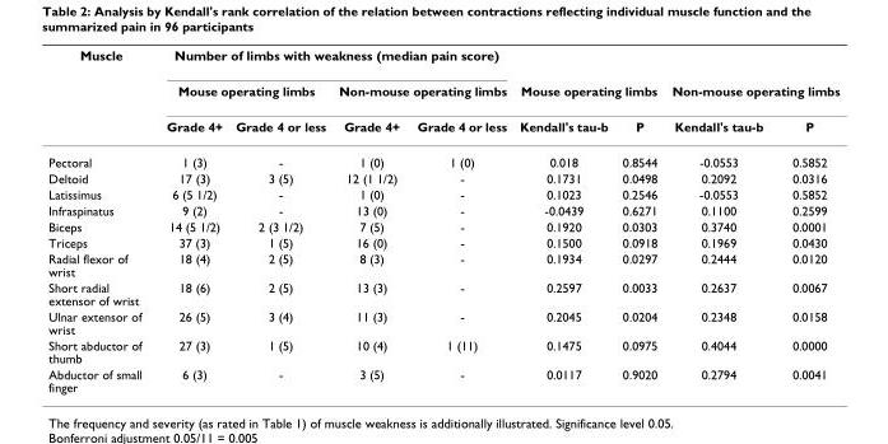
<table><thead><tr><td rowspan="3">Muscle</td><td colspan="4">Number of limbs with weakness (median pain score)</td><td></td><td></td><td></td><td></td></tr><tr><td colspan="2">Mouse operating limbs</td><td colspan="2">Non-mouse operating limbs</td><td colspan="2">Mouse operating limbs</td><td colspan="2">Non-mouse operating limbs</td></tr><tr><td>Grade 4+</td><td>Grade 4 or less</td><td>Grade 4+</td><td>Grade 4 or less</td><td>Kendall&#x27;s tau-b</td><td>P</td><td>Kendall&#x27;s tau-b</td><td>P</td></tr></thead><tbody><tr><td>Pectoral</td><td>1 (3)</td><td>-</td><td>1 (0)</td><td>1 (0)</td><td>0.018</td><td>0.8544</td><td>-0.0553</td><td>0.5852</td></tr><tr><td>Deltoid</td><td>17 (3)</td><td>3 (5)</td><td>12 (1 1/2)</td><td>-</td><td>0.1731</td><td>0.0498</td><td>0.2092</td><td>0.0316</td></tr><tr><td>Latissimus</td><td>6 (5 1/2)</td><td>-</td><td>1 (0)</td><td>-</td><td>0.1023</td><td>0.2546</td><td>-0.0553</td><td>0.5852</td></tr><tr><td>Infraspinatus</td><td>9 (2)</td><td>-</td><td>13 (0)</td><td>-</td><td>-0.0439</td><td>0.6271</td><td>0.1100</td><td>0.2599</td></tr><tr><td>Biceps</td><td>14 (5 1/2)</td><td>2 (3 1/2)</td><td>7 (5)</td><td>-</td><td>0.1920</td><td>0.0303</td><td>0.3740</td><td>0.0001</td></tr><tr><td>Triceps</td><td>37 (3)</td><td>1 (5)</td><td>16 (0)</td><td>-</td><td>0.1500</td><td>0.0918</td><td>0.1969</td><td>0.0430</td></tr><tr><td>Radial flexor of wrist</td><td>18 (4)</td><td>2 (5)</td><td>8 (3)</td><td>-</td><td>0.1934</td><td>0.0297</td><td>0.2444</td><td>0.0120</td></tr><tr><td>Short radial extensor of wrist</td><td>18 (6)</td><td>2 (5)</td><td>13 (3)</td><td>-</td><td>0.2597</td><td>0.0033</td><td>0.2637</td><td>0.0067</td></tr><tr><td>Ulnar extensor of wrist</td><td>26 (5)</td><td>3 (4)</td><td>11 (3)</td><td>-</td><td>0.2045</td><td>0.0204</td><td>0.2348</td><td>0.0158</td></tr><tr><td>Short abductor of thumb</td><td>27 (3)</td><td>1 (5)</td><td>10 (4)</td><td>1 (11)</td><td>0.1475</td><td>0.0975</td><td>0.4044</td><td>0.0000</td></tr><tr><td>Abductor of small finger</td><td>6 (3)</td><td>-</td><td>3 (5)</td><td>-</td><td>0.0117</td><td>0.9020</td><td>0.2794</td><td>0.0041</td></tr></tbody></table>